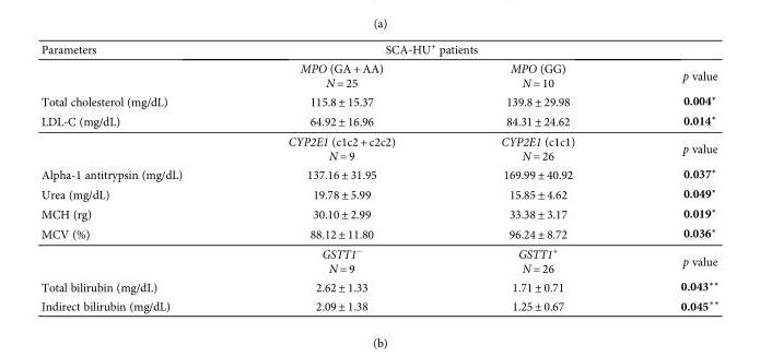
<table><thead><tr><td rowspan="2">Parameters</td><td colspan="2">SCA-HU<sup>+</sup> patients</td><td rowspan="2">p value</td></tr><tr><td>MPO (GA + AA) N = 25</td><td>MPO (GG) N = 10</td></tr></thead><tbody><tr><td>Total cholesterol (mg/dL)</td><td>115.8 ± 15.37</td><td>139.8 ± 29.98</td><td>0.004∗</td></tr><tr><td rowspan="2">LDL-C (mg/dL)</td><td>64.92 ± 16.96</td><td>84.31 ± 24.62</td><td>0.014∗</td></tr><tr><td>CYP2E1 (c1c2 + c2c2) N = 9</td><td>CYP2E1 (c1c1) N = 26</td><td>p value</td></tr><tr><td>Alpha-1 antitrypsin (mg/dL)</td><td>137.16 ± 31.95</td><td>169.99 ± 40.92</td><td>0.037∗</td></tr><tr><td>Urea (mg/dL)</td><td>19.78 ± 5.99</td><td>15.85 ± 4.62</td><td>0.049∗</td></tr><tr><td>MCH (rg)</td><td>30.10 ± 2.99</td><td>33.38 ± 3.17</td><td>0.019∗</td></tr><tr><td rowspan="2">MCV (%)</td><td>88.12 ± 11.80</td><td>96.24 ± 8.72</td><td>0.036∗</td></tr><tr><td>GSTT1<sup>−</sup> N = 9</td><td>GSTT1<sup>+</sup> N = 26</td><td>p value</td></tr><tr><td>Total bilirubin (mg/dL)</td><td>2.62 ± 1.33</td><td>1.71 ± 0.71</td><td>0.043∗∗</td></tr><tr><td>Indirect bilirubin (mg/dL)</td><td>2.09 ± 1.38</td><td>1.25 ± 0.67</td><td>0.045∗∗</td></tr></tbody></table>